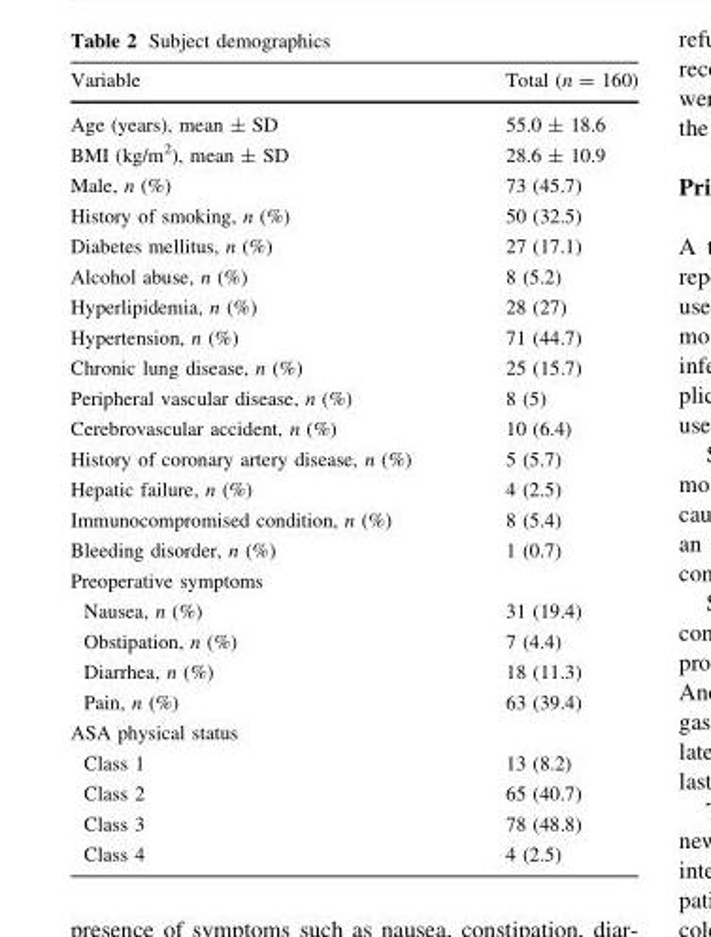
<table><thead><tr><td>Variable</td><td>Total (n = 160)</td></tr></thead><tbody><tr><td>Age (years), mean ± SD</td><td>55.0 ± 18.6</td></tr><tr><td>BMI (kg/m<sup>2</sup>), mean ± SD</td><td>28.6 ± 10.9</td></tr><tr><td>Male, n (%)</td><td>73 (45.7)</td></tr><tr><td>History of smoking, n (%)</td><td>50 (32.5)</td></tr><tr><td>Diabetes mellitus, n (%)</td><td>27 (17.1)</td></tr><tr><td>Alcohol abuse, n (%)</td><td>8 (5.2)</td></tr><tr><td>Hyperlipidemia, n (%)</td><td>28 (27)</td></tr><tr><td>Hypertension, n (%)</td><td>71 (44.7)</td></tr><tr><td>Chronic lung disease, n (%)</td><td>25 (15.7)</td></tr><tr><td>Peripheral vascular disease, n (%)</td><td>8 (5)</td></tr><tr><td>Cerebrovascular accident, n (%)</td><td>10 (6.4)</td></tr><tr><td>History of coronary artery disease, n (%)</td><td>5 (5.7)</td></tr><tr><td>Hepatic failure, n (%)</td><td>4 (2.5)</td></tr><tr><td>Immunocompromised condition, n (%)</td><td>8 (5.4)</td></tr><tr><td>Bleeding disorder, n (%)</td><td>1 (0.7)</td></tr><tr><td colspan="2">Preoperative symptoms</td></tr><tr><td>Nausea, n (%)</td><td>31 (19.4)</td></tr><tr><td>Obstipation, n (%)</td><td>7 (4.4)</td></tr><tr><td>Diarrhea, n (%)</td><td>18 (11.3)</td></tr><tr><td>Pain, n (%)</td><td>63 (39.4)</td></tr><tr><td colspan="2">ASA physical status</td></tr><tr><td>Class 1</td><td>13 (8.2)</td></tr><tr><td>Class 2</td><td>65 (40.7)</td></tr><tr><td>Class 3</td><td>78 (48.8)</td></tr><tr><td>Class 4</td><td>4 (2.5)</td></tr></tbody></table>